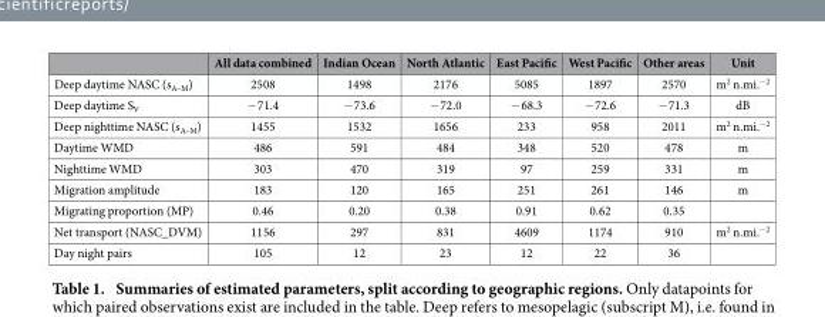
<table><thead><tr><td></td><td>All data combined</td><td>Indian Ocean</td><td>North Atlantic</td><td>East Pacific</td><td>West Pacific</td><td>Other areas</td><td>Unit</td></tr></thead><tbody><tr><td>Deep daytime NASC (s<sub>A–M</sub>)</td><td>2508</td><td>1498</td><td>2176</td><td>5085</td><td>1897</td><td>2570</td><td>m<sup>2</sup> n.mi.<sup>−2</sup></td></tr><tr><td>Deep daytime S<sub>V</sub></td><td>− 71.4</td><td>− 73.6</td><td>− 72.0</td><td>− 68.3</td><td>− 72.6</td><td>− 71.3</td><td>dB</td></tr><tr><td>Deep nighttime NASC (s<sub>A–M</sub>)</td><td>1455</td><td>1532</td><td>1656</td><td>233</td><td>958</td><td>2011</td><td>m<sup>2</sup> n.mi.<sup>−2</sup></td></tr><tr><td>Daytime WMD</td><td>486</td><td>591</td><td>484</td><td>348</td><td>520</td><td>478</td><td>m</td></tr><tr><td>Nighttime WMD</td><td>303</td><td>470</td><td>319</td><td>97</td><td>259</td><td>331</td><td>m</td></tr><tr><td>Migration amplitude</td><td>183</td><td>120</td><td>165</td><td>251</td><td>261</td><td>146</td><td>m</td></tr><tr><td>Migrating proportion (MP)</td><td>0.46</td><td>0.20</td><td>0.38</td><td>0.91</td><td>0.62</td><td>0.35</td><td></td></tr><tr><td>Net transport (NASC_DVM)</td><td>1156</td><td>297</td><td>831</td><td>4609</td><td>1174</td><td>910</td><td>m<sup>2</sup> n.mi.<sup>−2</sup></td></tr><tr><td>Day night pairs</td><td>105</td><td>12</td><td>23</td><td>12</td><td>22</td><td>36</td><td></td></tr></tbody></table>